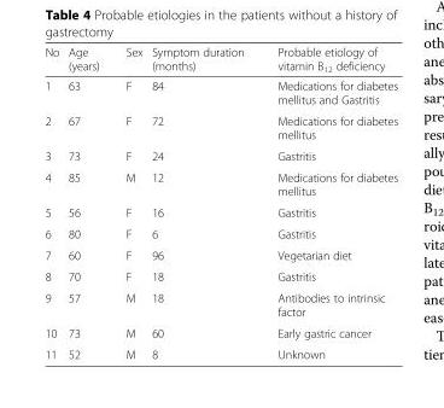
<table><thead><tr><td>No</td><td>Age (years)</td><td>Sex</td><td>Symptom duration (months)</td><td>Probable etiology of vitamin B<sub>12</sub> deficiency</td></tr></thead><tbody><tr><td>1</td><td>63</td><td>F</td><td>84</td><td>Medications for diabetes mellitus and Gastritis</td></tr><tr><td>2</td><td>67</td><td>F</td><td>72</td><td>Medications for diabetes mellitus</td></tr><tr><td>3</td><td>73</td><td>F</td><td>24</td><td>Gastritis</td></tr><tr><td>4</td><td>85</td><td>M</td><td>12</td><td>Medications for diabetes mellitus</td></tr><tr><td>5</td><td>56</td><td>F</td><td>16</td><td>Gastritis</td></tr><tr><td>6</td><td>80</td><td>F</td><td>6</td><td>Gastritis</td></tr><tr><td>7</td><td>60</td><td>F</td><td>96</td><td>Vegetarian diet</td></tr><tr><td>8</td><td>70</td><td>F</td><td>18</td><td>Gastritis</td></tr><tr><td>9</td><td>57</td><td>M</td><td>18</td><td>Antibodies to intrinsic factor</td></tr><tr><td>10</td><td>73</td><td>M</td><td>60</td><td>Early gastric cancer</td></tr><tr><td>11</td><td>52</td><td>M</td><td>8</td><td>Unknown</td></tr></tbody></table>